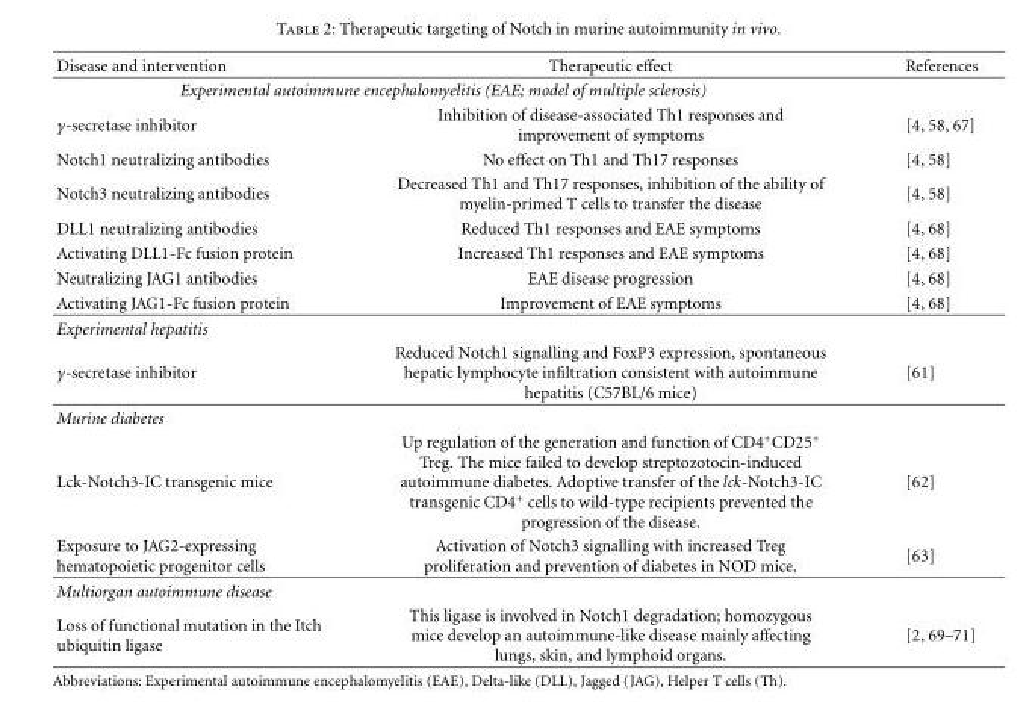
<table><thead><tr><td>Disease and intervention</td><td>Therapeutic effect</td><td>References</td></tr></thead><tbody><tr><td colspan="3">Experimental autoimmune encephalomyelitis (EAE; model of multiple sclerosis)</td></tr><tr><td>γ-secretase inhibitor</td><td>Inhibition of disease-associated Th1 responses and improvement of symptoms</td><td>[4, 58, 67]</td></tr><tr><td>Notch1 neutralizing antibodies</td><td>No effect on Th1 and Th17 responses</td><td>[4, 58]</td></tr><tr><td>Notch3 neutralizing antibodies</td><td>Decreased Th1 and Th17 responses, inhibition of the ability of myelin-primed T cells to transfer the disease</td><td>[4, 58]</td></tr><tr><td>DLL1 neutralizing antibodies</td><td>Reduced Th1 responses and EAE symptoms</td><td>[4, 68]</td></tr><tr><td>Activating DLL1-Fc fusion protein</td><td>Increased Th1 responses and EAE symptoms</td><td>[4, 68]</td></tr><tr><td>Neutralizing JAG1 antibodies</td><td>EAE disease progression</td><td>[4, 68]</td></tr><tr><td>Activating JAG1-Fc fusion protein</td><td>Improvement of EAE symptoms</td><td>[4, 68]</td></tr><tr><td colspan="3">Experimental hepatitis</td></tr><tr><td>γ-secretase inhibitor</td><td>Reduced Notch1 signalling and FoxP3 expression, spontaneous hepatic lymphocyte infiltration consistent with autoimmune hepatitis (C57BL/6 mice)</td><td>[61]</td></tr><tr><td colspan="3">Murine diabetes</td></tr><tr><td>Lck-Notch3-IC transgenic mice</td><td>Up regulation of the generation and function of CD4<sup>+</sup>CD25<sup>+</sup> Treg. The mice failed to develop streptozotocin-induced autoimmune diabetes. Adoptive transfer of the lck-Notch3-IC transgenic CD4<sup>+</sup> cells to wild-type recipients prevented the progression of the disease.</td><td>[62]</td></tr><tr><td>Exposure to JAG2-expressing hematopoietic progenitor cells</td><td>Activation of Notch3 signalling with increased Treg proliferation and prevention of diabetes in NOD mice.</td><td>[63]</td></tr><tr><td colspan="3">Multiorgan autoimmune disease</td></tr><tr><td>Loss of functional mutation in the Itch ubiquitin ligase</td><td>This ligase is involved in Notch1 degradation; homozygous mice develop an autoimmune-like disease mainly affecting lungs, skin, and lymphoid organs.</td><td>[2, 69–71]</td></tr></tbody></table>